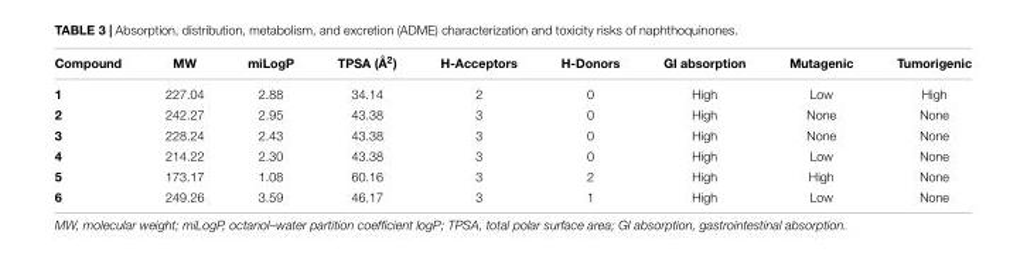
<table><thead><tr><td>Compound</td><td>MW</td><td>miLogP</td><td>TPSA (Å<sup>2</sup>)</td><td>H-Acceptors</td><td>H-Donors</td><td>GI absorption</td><td>Mutagenic</td><td>Tumorigenic</td></tr></thead><tbody><tr><td>1</td><td>227.04</td><td>2.88</td><td>34.14</td><td>2</td><td>0</td><td>High</td><td>Low</td><td>High</td></tr><tr><td>2</td><td>242.27</td><td>2.95</td><td>43.38</td><td>3</td><td>0</td><td>High</td><td>None</td><td>None</td></tr><tr><td>3</td><td>228.24</td><td>2.43</td><td>43.38</td><td>3</td><td>0</td><td>High</td><td>None</td><td>None</td></tr><tr><td>4</td><td>214.22</td><td>2.30</td><td>43.38</td><td>3</td><td>0</td><td>High</td><td>Low</td><td>None</td></tr><tr><td>5</td><td>173.17</td><td>1.08</td><td>60.16</td><td>3</td><td>2</td><td>High</td><td>High</td><td>None</td></tr><tr><td>6</td><td>249.26</td><td>3.59</td><td>46.17</td><td>3</td><td>1</td><td>High</td><td>Low</td><td>None</td></tr></tbody></table>